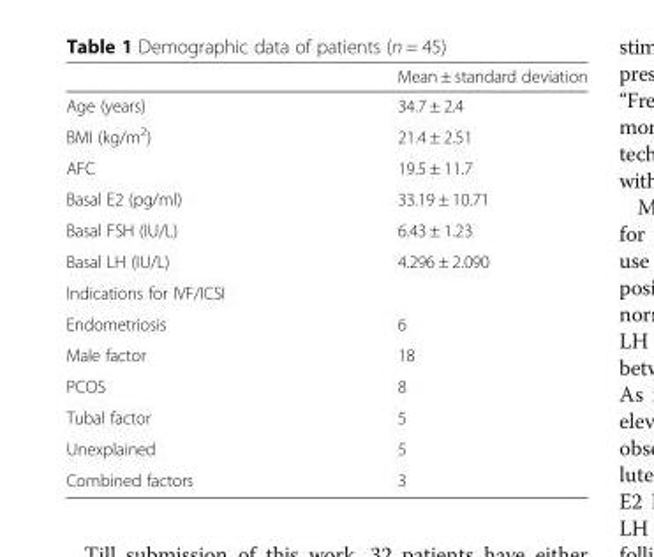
<table><thead><tr><td></td><td>Mean ± standard deviation</td></tr></thead><tbody><tr><td>Age (years)</td><td>34.7 ± 2.4</td></tr><tr><td>BMI (kg/m<sup>2</sup>)</td><td>21.4 ± 2.51</td></tr><tr><td>AFC</td><td>19.5 ± 11.7</td></tr><tr><td>Basal E2 (pg/ml)</td><td>33.19 ± 10.71</td></tr><tr><td>Basal FSH (IU/L)</td><td>6.43 ± 1.23</td></tr><tr><td>Basal LH (IU/L)</td><td>4.296 ± 2.090</td></tr><tr><td colspan="2">Indications for IVF/ICSI</td></tr><tr><td>Endometriosis</td><td>6</td></tr><tr><td>Male factor</td><td>18</td></tr><tr><td>PCOS</td><td>8</td></tr><tr><td>Tubal factor</td><td>5</td></tr><tr><td>Unexplained</td><td>5</td></tr><tr><td>Combined factors</td><td>3</td></tr></tbody></table>